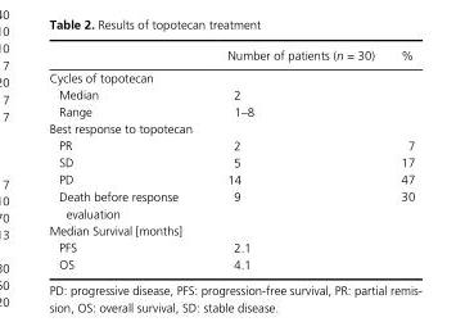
<table><thead><tr><td></td><td>Number of patients (n = 30)</td><td>%</td></tr></thead><tbody><tr><td colspan="3">Cycles of topotecan</td></tr><tr><td>Median</td><td>2</td><td></td></tr><tr><td>Range</td><td>1–8</td><td></td></tr><tr><td colspan="3">Best response to topotecan</td></tr><tr><td>PR</td><td>2</td><td>7</td></tr><tr><td>SD</td><td>5</td><td>17</td></tr><tr><td>PD</td><td>14</td><td>47</td></tr><tr><td>Death before response evaluation</td><td>9</td><td>30</td></tr><tr><td colspan="3">Median Survival [months]</td></tr><tr><td>PFS</td><td>2.1</td><td></td></tr><tr><td>OS</td><td>4.1</td><td></td></tr></tbody></table>